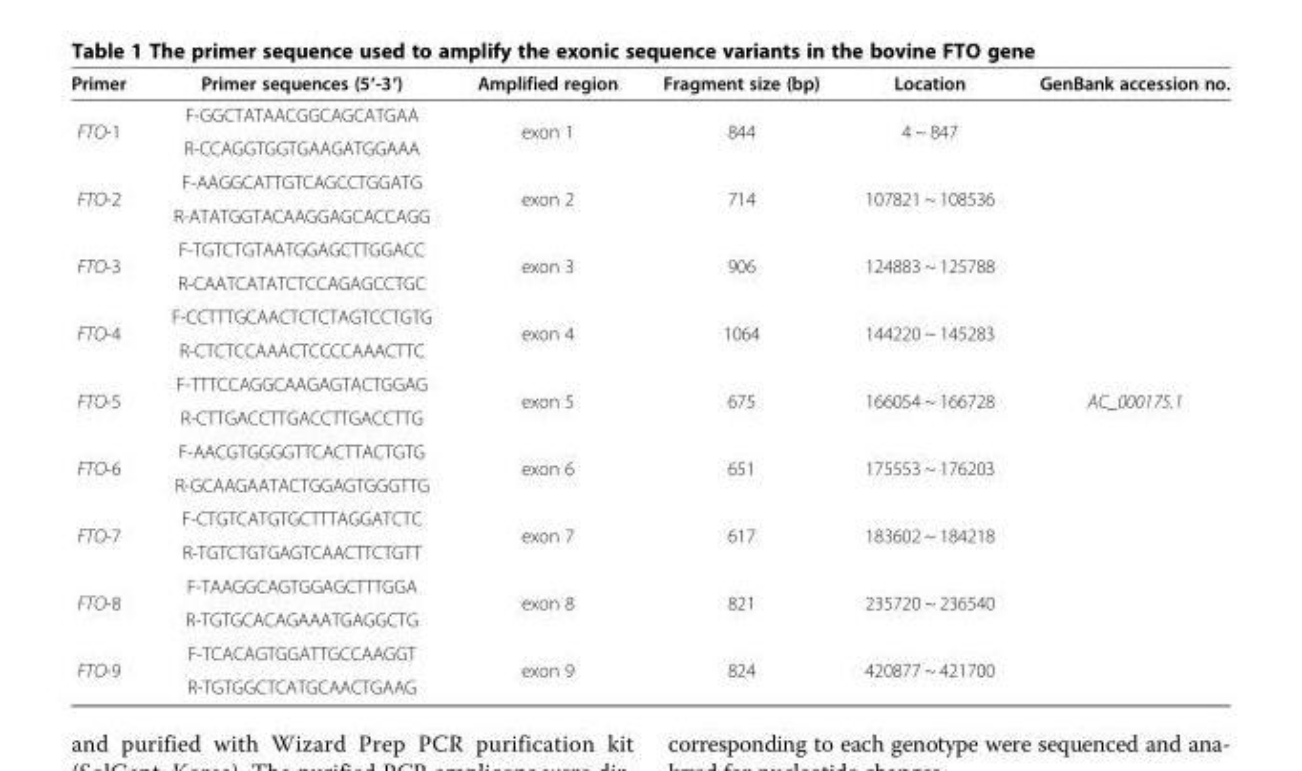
<table><thead><tr><td>Primer</td><td>Primer sequences (5′-3′)</td><td>Amplified region</td><td>Fragment size (bp)</td><td>Location</td><td>GenBank accession no.</td></tr></thead><tbody><tr><td rowspan="2">FTO-1</td><td>F-GGCTATAACGGCAGCATGAA</td><td rowspan="2">exon 1</td><td rowspan="2">844</td><td rowspan="2">4 ~ 847</td><td rowspan="18">AC_000175.1</td></tr><tr><td>R-CCAGGTGGTGAAGATGGAAA</td></tr><tr><td rowspan="2">FTO-2</td><td>F-AAGGCATTGTCAGCCTGGATG</td><td rowspan="2">exon 2</td><td rowspan="2">714</td><td rowspan="2">107821 ~ 108536</td></tr><tr><td>R-ATATGGTACAAGGAGCACCAGG</td></tr><tr><td rowspan="2">FTO-3</td><td>F-TGTCTGTAATGGAGCTTGGACC</td><td rowspan="2">exon 3</td><td rowspan="2">906</td><td rowspan="2">124883 ~ 125788</td></tr><tr><td>R-CAATCATATCTCCAGAGCCTGC</td></tr><tr><td rowspan="2">FTO-4</td><td>F-CCTTTGCAACTCTCTAGTCCTGTG</td><td rowspan="2">exon 4</td><td rowspan="2">1064</td><td rowspan="2">144220 ~ 145283</td></tr><tr><td>R-CTCTCCAAACTCCCCAAACTTC</td></tr><tr><td rowspan="2">FTO-5</td><td>F-TTTCCAGGCAAGAGTACTGGAG</td><td rowspan="2">exon 5</td><td rowspan="2">675</td><td rowspan="2">166054 ~ 166728</td></tr><tr><td>R-CTTGACCTTGACCTTGACCTTG</td></tr><tr><td rowspan="2">FTO-6</td><td>F-AACGTGGGGTTCACTTACTGTG</td><td rowspan="2">exon 6</td><td rowspan="2">651</td><td rowspan="2">175553 ~ 176203</td></tr><tr><td>R-GCAAGAATACTGGAGTGGGTTG</td></tr><tr><td rowspan="2">FTO-7</td><td>F-CTGTCATGTGCTTTAGGATCTC</td><td rowspan="2">exon 7</td><td rowspan="2">617</td><td rowspan="2">183602 ~ 184218</td></tr><tr><td>R-TGTCTGTGAGTCAACTTCTGTT</td></tr><tr><td rowspan="2">FTO-8</td><td>F-TAAGGCAGTGGAGCTTTGGA</td><td rowspan="2">exon 8</td><td rowspan="2">821</td><td rowspan="2">235720 ~ 236540</td></tr><tr><td>R-TGTGCACAGAAATGAGGCTG</td></tr><tr><td rowspan="2">FTO-9</td><td>F-TCACAGTGGATTGCCAAGGT</td><td rowspan="2">exon 9</td><td rowspan="2">824</td><td rowspan="2">420877 ~ 421700</td></tr><tr><td>R-TGTGGCTCATGCAACTGAAG</td></tr></tbody></table>